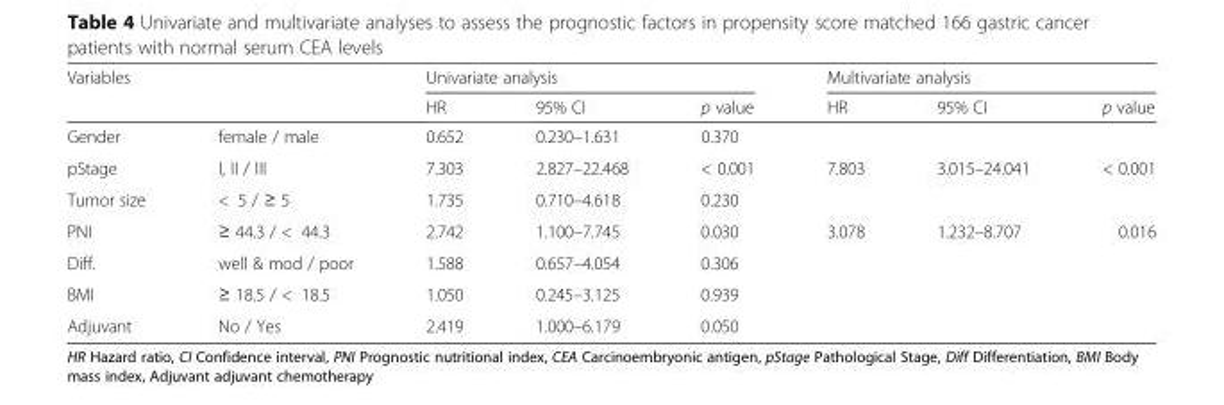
<table><thead><tr><td rowspan="2" colspan="2">Variables</td><td colspan="3">Univariate analysis</td><td colspan="3">Multivariate analysis</td></tr><tr><td rowspan="2">HR 0.652</td><td rowspan="2">95% CI 0.230–1.631</td><td rowspan="2">p value 0.370</td><td rowspan="2">HR</td><td rowspan="2">95% CI</td><td rowspan="2">p value</td></tr><tr><td>Gender</td><td>female / male</td></tr></thead><tbody><tr><td>pStage</td><td>I, II / III</td><td>7.303</td><td>2.827–22.468</td><td>&lt; 0.001</td><td>7.803</td><td>3.015–24.041</td><td>&lt; 0.001</td></tr><tr><td>Tumor size</td><td>&lt; 5 / ≥ 5</td><td>1.735</td><td>0.710–4.618</td><td>0.230</td><td></td><td></td><td></td></tr><tr><td>PNI</td><td>≥ 44.3 / &lt; 44.3</td><td>2.742</td><td>1.100–7.745</td><td>0.030</td><td>3.078</td><td>1.232–8.707</td><td>0.016</td></tr><tr><td>Diff.</td><td>well &amp; mod / poor</td><td>1.588</td><td>0.657–4.054</td><td>0.306</td><td></td><td></td><td></td></tr><tr><td>BMI</td><td>≥ 18.5 / &lt; 18.5</td><td>1.050</td><td>0.245–3.125</td><td>0.939</td><td></td><td></td><td></td></tr><tr><td>Adjuvant</td><td>No / Yes</td><td>2.419</td><td>1.000–6.179</td><td>0.050</td><td></td><td></td><td></td></tr></tbody></table>